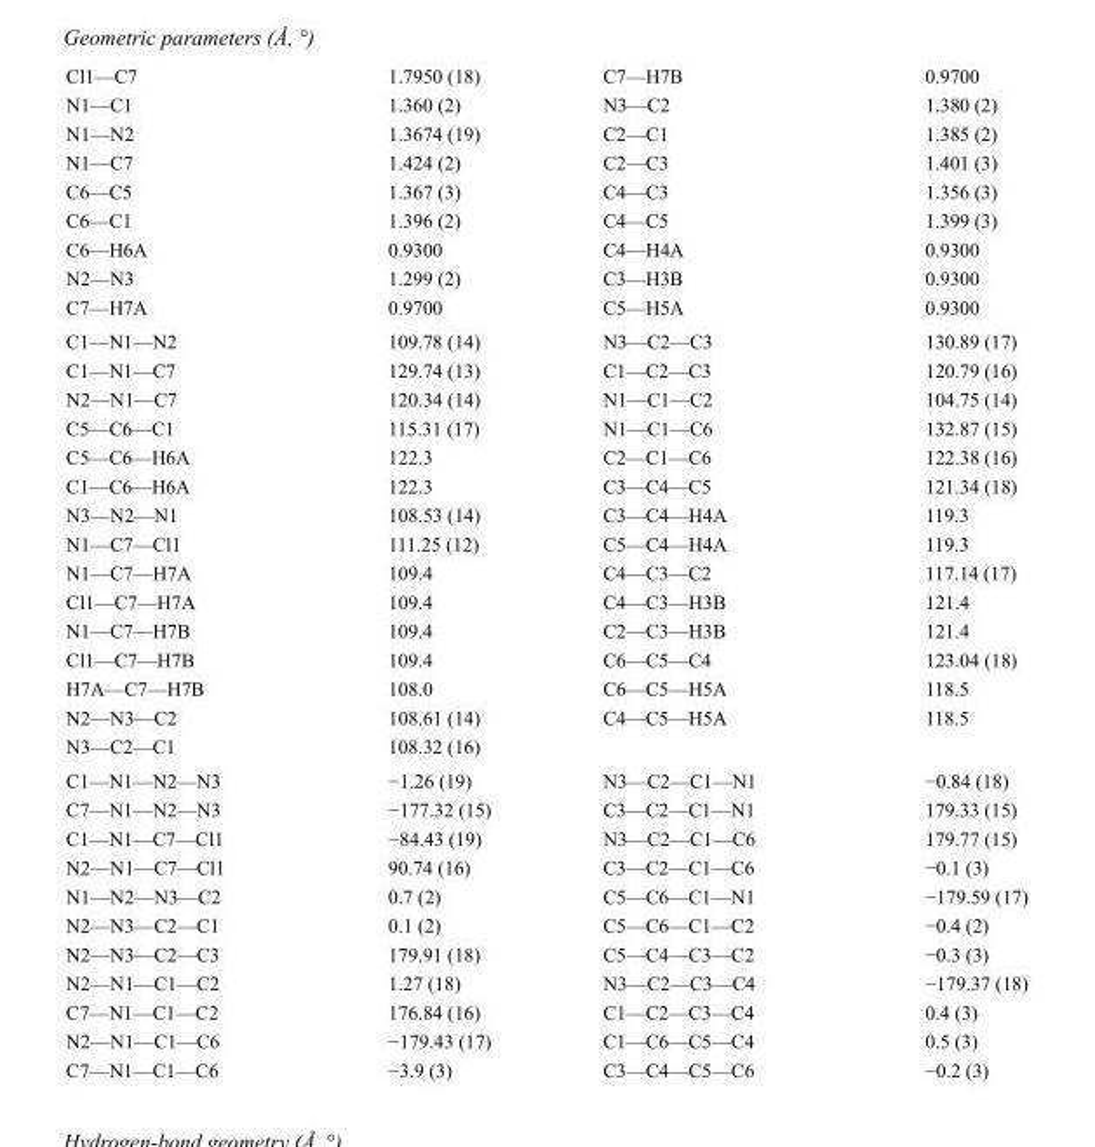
<table><tbody><tr><td>Cl1—C7</td><td>1.7950 (18)</td><td>C7—H7B</td><td>0.9700</td></tr><tr><td>N1—C1</td><td>1.360 (2)</td><td>N3—C2</td><td>1.380 (2)</td></tr><tr><td>N1—N2</td><td>1.3674 (19)</td><td>C2—C1</td><td>1.385 (2)</td></tr><tr><td>N1—C7</td><td>1.424 (2)</td><td>C2—C3</td><td>1.401 (3)</td></tr><tr><td>C6—C5</td><td>1.367 (3)</td><td>C4—C3</td><td>1.356 (3)</td></tr><tr><td>C6—C1</td><td>1.396 (2)</td><td>C4—C5</td><td>1.399 (3)</td></tr><tr><td>C6—H6A</td><td>0.9300</td><td>C4—H4A</td><td>0.9300</td></tr><tr><td>N2—N3</td><td>1.299 (2)</td><td>C3—H3B</td><td>0.9300</td></tr><tr><td>C7—H7A</td><td>0.9700</td><td>C5—H5A</td><td>0.9300</td></tr><tr><td>C1—N1—N2</td><td>109.78 (14)</td><td>N3—C2—C3</td><td>130.89 (17)</td></tr><tr><td>C1—N1—C7</td><td>129.74 (13)</td><td>C1—C2—C3</td><td>120.79 (16)</td></tr><tr><td>N2—N1—C7</td><td>120.34 (14)</td><td>N1—C1—C2</td><td>104.75 (14)</td></tr><tr><td>C5—C6—C1</td><td>115.31 (17)</td><td>N1—C1—C6</td><td>132.87 (15)</td></tr><tr><td>C5—C6—H6A</td><td>122.3</td><td>C2—C1—C6</td><td>122.38 (16)</td></tr><tr><td>C1—C6—H6A</td><td>122.3</td><td>C3—C4—C5</td><td>121.34 (18)</td></tr><tr><td>N3—N2—N1</td><td>108.53 (14)</td><td>C3—C4—H4A</td><td>119.3</td></tr><tr><td>N1—C7—Cl1</td><td>111.25 (12)</td><td>C5—C4—H4A</td><td>119.3</td></tr><tr><td>N1—C7—H7A</td><td>109.4</td><td>C4—C3—C2</td><td>117.14 (17)</td></tr><tr><td>Cl1—C7—H7A</td><td>109.4</td><td>C4—C3—H3B</td><td>121.4</td></tr><tr><td>N1—C7—H7B</td><td>109.4</td><td>C2—C3—H3B</td><td>121.4</td></tr><tr><td>Cl1—C7—H7B</td><td>109.4</td><td>C6—C5—C4</td><td>123.04 (18)</td></tr><tr><td>H7A—C7—H7B</td><td>108.0</td><td>C6—C5—H5A</td><td>118.5</td></tr><tr><td>N2—N3—C2</td><td>108.61 (14)</td><td>C4—C5—H5A</td><td>118.5</td></tr><tr><td>N3—C2—C1</td><td>108.32 (16)</td><td></td><td></td></tr><tr><td>C1—N1—N2—N3</td><td>−1.26 (19)</td><td>N3—C2—C1—N1</td><td>−0.84 (18)</td></tr><tr><td>C7—N1—N2—N3</td><td>−177.32 (15)</td><td>C3—C2—C1—N1</td><td>179.33 (15)</td></tr><tr><td>C1—N1—C7—Cl1</td><td>−84.43 (19)</td><td>N3—C2—C1—C6</td><td>179.77 (15)</td></tr><tr><td>N2—N1—C7—Cl1</td><td>90.74 (16)</td><td>C3—C2—C1—C6</td><td>−0.1 (3)</td></tr><tr><td>N1—N2—N3—C2</td><td>0.7 (2)</td><td>C5—C6—C1—N1</td><td>−179.59 (17)</td></tr><tr><td>N2—N3—C2—C1</td><td>0.1 (2)</td><td>C5—C6—C1—C2</td><td>−0.4 (2)</td></tr><tr><td>N2—N3—C2—C3</td><td>179.91 (18)</td><td>C5—C4—C3—C2</td><td>−0.3 (3)</td></tr><tr><td>N2—N1—C1—C2</td><td>1.27 (18)</td><td>N3—C2—C3—C4</td><td>−179.37 (18)</td></tr><tr><td>C7—N1—C1—C2</td><td>176.84 (16)</td><td>C1—C2—C3—C4</td><td>0.4 (3)</td></tr><tr><td>N2—N1—C1—C6</td><td>−179.43 (17)</td><td>C1—C6—C5—C4</td><td>0.5 (3)</td></tr><tr><td>C7—N1—C1—C6</td><td>−3.9 (3)</td><td>C3—C4—C5—C6</td><td>−0.2 (3)</td></tr></tbody></table>